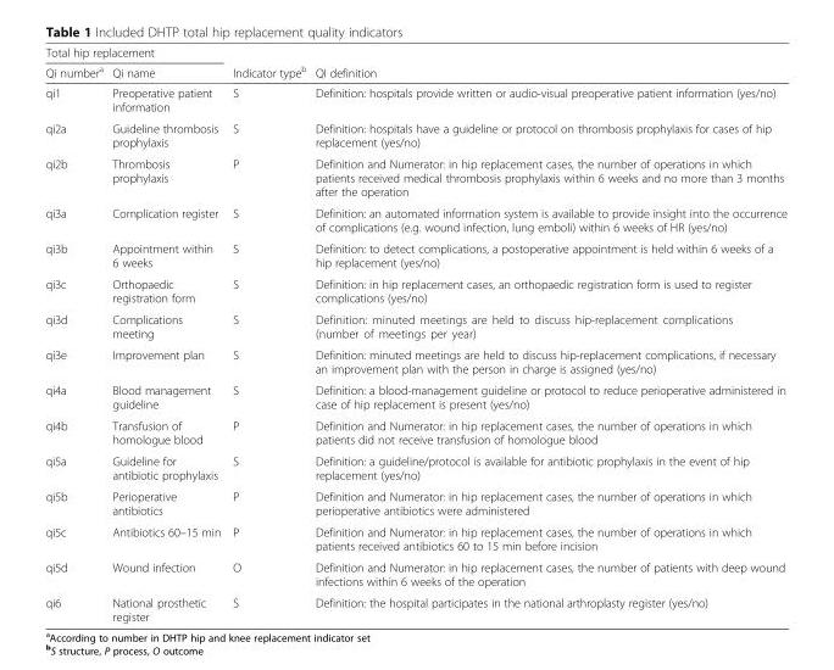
<table><thead><tr><td colspan="2">Total hip replacement</td><td rowspan="2">Indicator type<sup>b</sup></td><td rowspan="2">QI definition</td></tr><tr><td>Qi number<sup>a</sup></td><td>Qi name</td></tr></thead><tbody><tr><td>qi1</td><td>Preoperative patient information</td><td>S</td><td>Definition: hospitals provide written or audio-visual preoperative patient information (yes/no)</td></tr><tr><td>qi2a</td><td>Guideline thrombosis prophylaxis</td><td>S</td><td>Definition: hospitals have a guideline or protocol on thrombosis prophylaxis for cases of hip replacement (yes/no)</td></tr><tr><td>qi2b</td><td>Thrombosis prophylaxis</td><td>P</td><td>Definition and Numerator: in hip replacement cases, the number of operations in which patients received medical thrombosis prophylaxis within 6 weeks and no more than 3 months after the operation</td></tr><tr><td>qi3a</td><td>Complication register</td><td>S</td><td>Definition: an automated information system is available to provide insight into the occurrence of complications (e.g. wound infection, lung emboli) within 6 weeks of HR (yes/no)</td></tr><tr><td>qi3b</td><td>Appointment within 6 weeks</td><td>S</td><td>Definition: to detect complications, a postoperative appointment is held within 6 weeks of a hip replacement (yes/no)</td></tr><tr><td>qi3c</td><td>Orthopaedic registration form</td><td>S</td><td>Definition: in hip replacement cases, an orthopaedic registration form is used to register complications (yes/no)</td></tr><tr><td>qi3d</td><td>Complications meeting</td><td>S</td><td>Definition: minuted meetings are held to discuss hip-replacement complications (number of meetings per year)</td></tr><tr><td>qi3e</td><td>Improvement plan</td><td>S</td><td>Definition: minuted meetings are held to discuss hip-replacement complications, if necessary an improvement plan with the person in charge is assigned (yes/no)</td></tr><tr><td>qi4a</td><td>Blood management guideline</td><td>S</td><td>Definition: a blood-management guideline or protocol to reduce perioperative administered in case of hip replacement is present (yes/no)</td></tr><tr><td>qi4b</td><td>Transfusion of homologue blood</td><td>P</td><td>Definition and Numerator: in hip replacement cases, the number of operations in which patients did not receive transfusion of homologue blood</td></tr><tr><td>qi5a</td><td>Guideline for antibiotic prophylaxis</td><td>S</td><td>Definition: a guideline/protocol is available for antibiotic prophylaxis in the event of hip replacement (yes/no)</td></tr><tr><td>qi5b</td><td>Perioperative antibiotics</td><td>P</td><td>Definition and Numerator: in hip replacement cases, the number of operations in which perioperative antibiotics were administered</td></tr><tr><td>qi5c</td><td>Antibiotics 60–15 min</td><td>P</td><td>Definition and Numerator: in hip replacement cases, the number of operations in which patients received antibiotics 60 to 15 min before incision</td></tr><tr><td>qi5d</td><td>Wound infection</td><td>O</td><td>Definition and Numerator: in hip replacement cases, the number of patients with deep wound infections within 6 weeks of the operation</td></tr><tr><td>qi6</td><td>National prosthetic register</td><td>S</td><td>Definition: the hospital participates in the national arthroplasty register (yes/no)</td></tr></tbody></table>